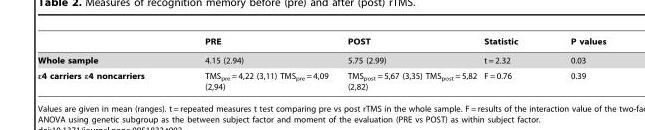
<table><thead><tr><td></td><td>PRE</td><td>POST</td><td>Statistic</td><td>P values</td></tr></thead><tbody><tr><td>Whole sample</td><td>4.15 (2.94)</td><td>5.75 (2.99)</td><td>t = 2.32</td><td>0.03</td></tr><tr><td>ε4 carriers ε4 noncarriers</td><td>TMS<sub>pre</sub> = 4,22 (3,11) TMS<sub>pre</sub> = 4,09 (2,94)</td><td>TMS<sub>post</sub> = 5,67 (3,35) TMS<sub>post</sub> = 5,82 (2,82)</td><td>F = 0.76</td><td>0.39</td></tr></tbody></table>